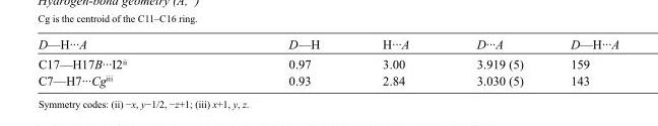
<table><tbody><tr><td>D—H···A</td><td>D—H</td><td>H···A</td><td>D···A</td><td>D—H···A</td></tr><tr><td>C17—H17B···I2<sup>ii</sup></td><td>0.97</td><td>3.00</td><td>3.919 (5)</td><td>159</td></tr><tr><td>C7—H7···Cg<sup>iii</sup></td><td>0.93</td><td>2.84</td><td>3.030 (5)</td><td>143</td></tr></tbody></table>